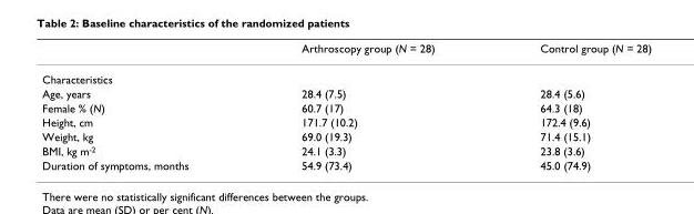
<table><thead><tr><td></td><td>Arthroscopy group (N = 28)</td><td>Control group (N = 28)</td></tr></thead><tbody><tr><td colspan="3">Characteristics</td></tr><tr><td>Age, years</td><td>28.4 (7.5)</td><td>28.4 (5.6)</td></tr><tr><td>Female % (N)</td><td>60.7 (17)</td><td>64.3 (18)</td></tr><tr><td>Height, cm</td><td>171.7 (10.2)</td><td>172.4 (9.6)</td></tr><tr><td>Weight, kg</td><td>69.0 (19.3)</td><td>71.4 (15.1)</td></tr><tr><td>BMI, kg m<sup>-2</sup></td><td>24.1 (3.3)</td><td>23.8 (3.6)</td></tr><tr><td>Duration of symptoms, months</td><td>54.9 (73.4)</td><td>45.0 (74.9)</td></tr></tbody></table>